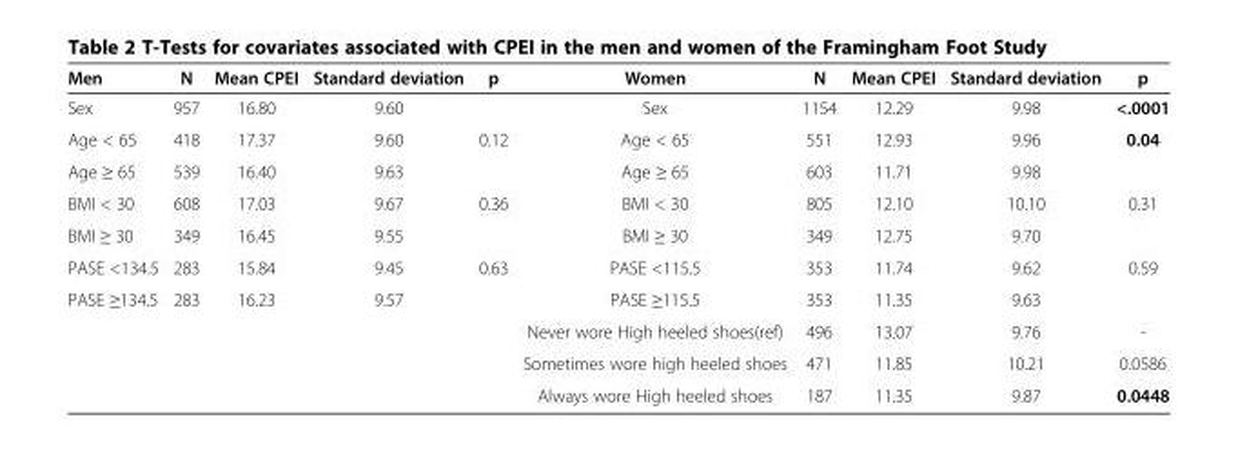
<table><thead><tr><td>Men</td><td>N</td><td>Mean CPEI</td><td>Standard deviation</td><td>p</td><td>Women</td><td>N</td><td>Mean CPEI</td><td>Standard deviation</td><td>p</td></tr></thead><tbody><tr><td>Sex</td><td>957</td><td>16.80</td><td>9.60</td><td></td><td>Sex</td><td>1154</td><td>12.29</td><td>9.98</td><td>&lt;.0001</td></tr><tr><td>Age &lt; 65</td><td>418</td><td>17.37</td><td>9.60</td><td rowspan="2">0.12</td><td>Age &lt; 65</td><td>551</td><td>12.93</td><td>9.96</td><td rowspan="2">0.04</td></tr><tr><td>Age ≥ 65</td><td>539</td><td>16.40</td><td>9.63</td><td>Age ≥ 65</td><td>603</td><td>11.71</td><td>9.98</td></tr><tr><td>BMI &lt; 30</td><td>608</td><td>17.03</td><td>9.67</td><td rowspan="2">0.36</td><td>BMI &lt; 30</td><td>805</td><td>12.10</td><td>10.10</td><td rowspan="2">0.31</td></tr><tr><td>BMI ≥ 30</td><td>349</td><td>16.45</td><td>9.55</td><td>BMI ≥ 30</td><td>349</td><td>12.75</td><td>9.70</td></tr><tr><td>PASE &lt;134.5</td><td>283</td><td>15.84</td><td>9.45</td><td rowspan="2">0.63</td><td>PASE &lt;115.5</td><td>353</td><td>11.74</td><td>9.62</td><td rowspan="2">0.59</td></tr><tr><td rowspan="4">PASE ≥134.5</td><td>283</td><td>16.23</td><td>9.57</td><td>PASE ≥115.5</td><td>353</td><td>11.35</td><td>9.63</td></tr><tr><td></td><td></td><td></td><td rowspan="3"></td><td>Never wore High heeled shoes(ref)</td><td>496</td><td>13.07</td><td>9.76</td><td>-</td></tr><tr><td></td><td></td><td></td><td>Sometimes wore high heeled shoes</td><td>471</td><td>11.85</td><td>10.21</td><td>0.0586</td></tr><tr><td></td><td></td><td></td><td>Always wore High heeled shoes</td><td>187</td><td>11.35</td><td>9.87</td><td>0.0448</td></tr></tbody></table>